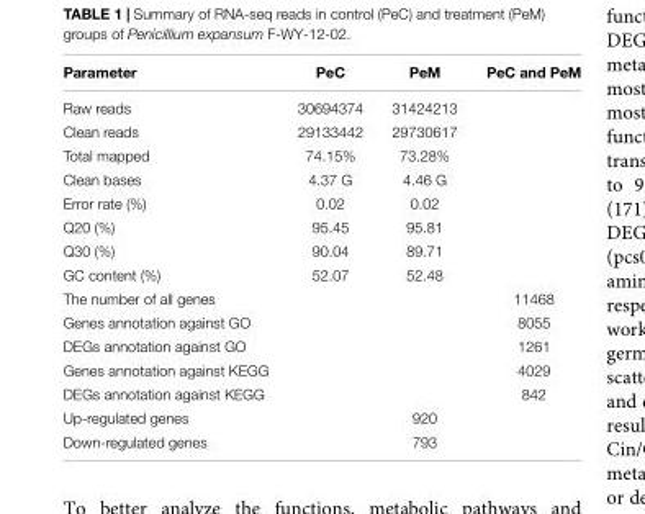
<table><thead><tr><td>Parameter</td><td>PeC</td><td>PeM</td><td>PeC and PeM</td></tr></thead><tbody><tr><td>Raw reads</td><td>30694374</td><td>31424213</td><td></td></tr><tr><td>Clean reads</td><td>29133442</td><td>29730617</td><td></td></tr><tr><td>Total mapped</td><td>74.15%</td><td>73.28%</td><td></td></tr><tr><td>Clean bases</td><td>4.37 G</td><td>4.46 G</td><td></td></tr><tr><td>Error rate (%)</td><td>0.02</td><td>0.02</td><td></td></tr><tr><td>Q20 (%)</td><td>95.45</td><td>95.81</td><td></td></tr><tr><td>Q30 (%)</td><td>90.04</td><td>89.71</td><td></td></tr><tr><td>GC content (%)</td><td>52.07</td><td>52.48</td><td></td></tr><tr><td>The number of all genes</td><td></td><td></td><td>11468</td></tr><tr><td>Genes annotation against GO</td><td></td><td></td><td>8055</td></tr><tr><td>DEGs annotation against GO</td><td></td><td></td><td>1261</td></tr><tr><td>Genes annotation against KEGG</td><td></td><td></td><td>4029</td></tr><tr><td>DEGs annotation against KEGG</td><td></td><td></td><td>842</td></tr><tr><td>Up-regulated genes</td><td></td><td>920</td><td></td></tr><tr><td>Down-regulated genes</td><td></td><td>793</td><td></td></tr></tbody></table>